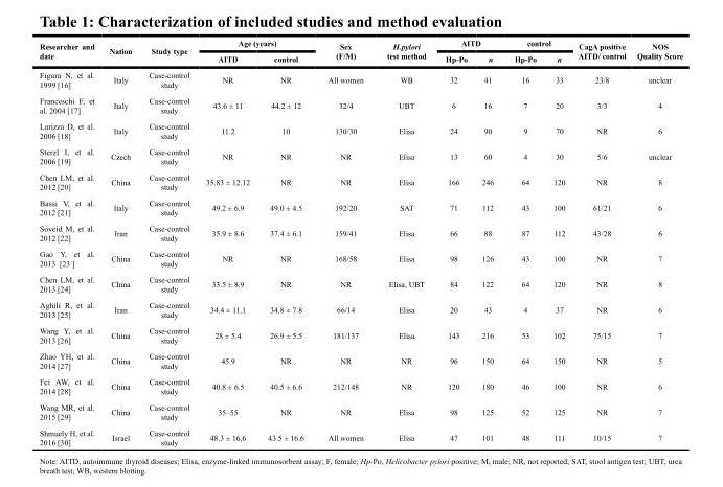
<table><thead><tr><td rowspan="2">Researcher and date</td><td rowspan="2">Nation</td><td rowspan="2">Study type</td><td colspan="2">Age (years)</td><td rowspan="2">Sex (F/M)</td><td rowspan="2">H.pylori test method</td><td colspan="2">AITD</td><td colspan="2">control</td><td rowspan="2">CagA positive AITD/ control</td><td rowspan="2">NOS Quality Score</td></tr><tr><td>AITD</td><td>control</td><td>Hp-Po</td><td>n</td><td>Hp-Po</td><td>n</td></tr></thead><tbody><tr><td>Figura N, et al. 1999 [16]</td><td>Italy</td><td>Case-control study</td><td>NR</td><td>NR</td><td>All women</td><td>WB</td><td>32</td><td>41</td><td>16</td><td>33</td><td>23/8</td><td>unclear</td></tr><tr><td>Franceschi F, et al. 2004 [17]</td><td>Italy</td><td>Case-control study</td><td>43.6 ± 11</td><td>44.2 ± 12</td><td>32/4</td><td>UBT</td><td>6</td><td>16</td><td>7</td><td>20</td><td>3/3</td><td>4</td></tr><tr><td>Larizza D, et al. 2006 [18]</td><td>Italy</td><td>Case-control study</td><td>11.2</td><td>10</td><td>130/30</td><td>Elisa</td><td>24</td><td>90</td><td>9</td><td>70</td><td>NR</td><td>6</td></tr><tr><td>Sterzl I, et al. 2006 [19]</td><td>Czech</td><td>Case-control study</td><td>NR</td><td>NR</td><td>NR</td><td>Elisa</td><td>13</td><td>60</td><td>4</td><td>30</td><td>5/6</td><td>unclear</td></tr><tr><td>Chen LM, et al. 2012 [20]</td><td>China</td><td>Case-control study</td><td>35.83 ± 12.12</td><td>NR</td><td>NR</td><td>Elisa</td><td>166</td><td>246</td><td>64</td><td>120</td><td>NR</td><td>8</td></tr><tr><td>Bassi V, et al. 2012 [21]</td><td>Italy</td><td>Case-control study</td><td>49.2 ± 6.9</td><td>49.0 ± 4.5</td><td>192/20</td><td>SAT</td><td>71</td><td>112</td><td>43</td><td>100</td><td>61/21</td><td>6</td></tr><tr><td>Soveid M, et al. 2012 [22]</td><td>Iran</td><td>Case-control study</td><td>35.9 ± 8.6</td><td>37.4 ± 6.1</td><td>159/41</td><td>Elisa</td><td>66</td><td>88</td><td>87</td><td>112</td><td>43/28</td><td>6</td></tr><tr><td>Gao Y, et al. 2013 [23 ]</td><td>China</td><td>Case-control study</td><td>NR</td><td>NR</td><td>168/58</td><td>Elisa</td><td>98</td><td>126</td><td>43</td><td>100</td><td>NR</td><td>7</td></tr><tr><td>Chen LM, et al. 2013 [24]</td><td>China</td><td>Case-control study</td><td>33.5 ± 8.9</td><td>NR</td><td>NR</td><td>Elisa, UBT</td><td>84</td><td>122</td><td>64</td><td>120</td><td>NR</td><td>8</td></tr><tr><td>Aghili R, et al. 2013 [25]</td><td>Iran</td><td>Case-control study</td><td>34.4 ± 11.1</td><td>34.8 ± 7.8</td><td>66/14</td><td>Elisa</td><td>20</td><td>43</td><td>4</td><td>37</td><td>NR</td><td>6</td></tr><tr><td>Wang Y, et al. 2013 [26]</td><td>China</td><td>Case-control study</td><td>28 ± 5.4</td><td>26.9 ± 5.5</td><td>181/137</td><td>Elisa</td><td>143</td><td>216</td><td>53</td><td>102</td><td>75/15</td><td>7</td></tr><tr><td>Zhao YH, et al. 2014 [27]</td><td>China</td><td>Case-control study</td><td>45.9</td><td>NR</td><td>NR</td><td>NR</td><td>96</td><td>150</td><td>64</td><td>150</td><td>NR</td><td>5</td></tr><tr><td>Fei AW, et al. 2014 [28]</td><td>China</td><td>Case-control study</td><td>40.8 ± 6.5</td><td>40.5 ± 6.6</td><td>212/148</td><td>NR</td><td>120</td><td>180</td><td>46</td><td>100</td><td>NR</td><td>6</td></tr><tr><td>Wang MR, et al. 2015 [29]</td><td>China</td><td>Case-control study</td><td>35–55</td><td>NR</td><td>NR</td><td>Elisa</td><td>98</td><td>125</td><td>52</td><td>125</td><td>NR</td><td>7</td></tr><tr><td>Shmuely H, et al. 2016 [30]</td><td>Israel</td><td>Case-control study</td><td>48.3 ± 16.6</td><td>43.5 ± 16.6</td><td>All women</td><td>Elisa</td><td>47</td><td>101</td><td>48</td><td>111</td><td>10/15</td><td>7</td></tr></tbody></table>